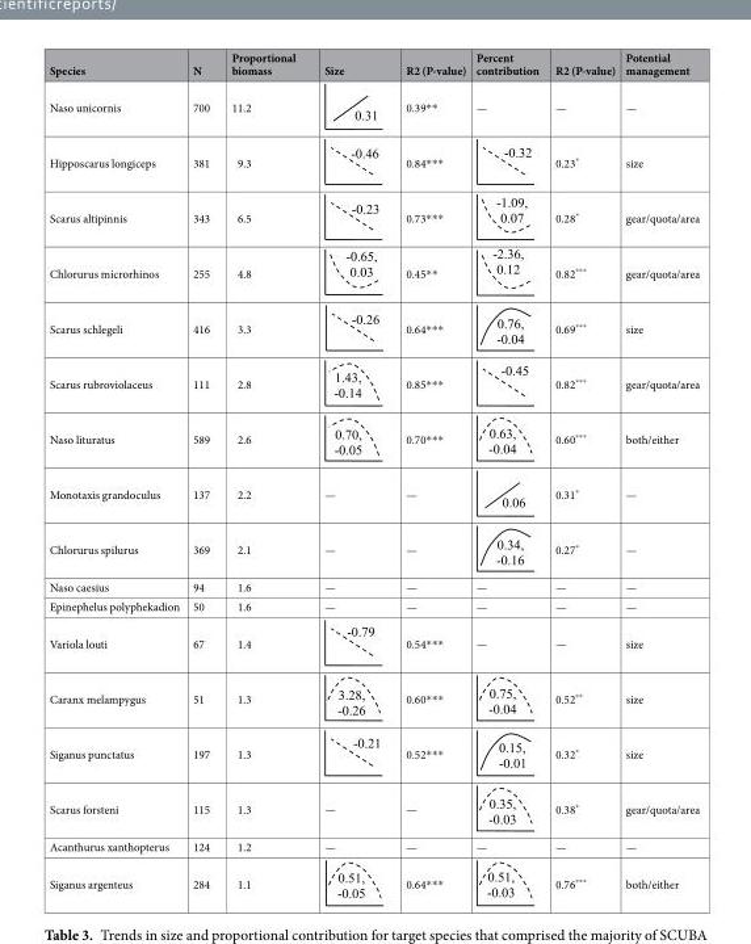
<table><thead><tr><td>Species</td><td>N</td><td>Proportional biomass</td><td>Size</td><td>R2 (P-value)</td><td>Percent contribution</td><td>R2 (P-value)</td><td>Potential management</td></tr></thead><tbody><tr><td>Naso unicornis</td><td>700</td><td>11.2</td><td></td><td>0.39**</td><td>—</td><td>—</td><td>—</td></tr><tr><td>Hipposcarus longiceps</td><td>381</td><td>9.3</td><td></td><td>0.84***</td><td></td><td>0.23*</td><td>size</td></tr><tr><td>Scarus altipinnis</td><td>343</td><td>6.5</td><td></td><td>0.73***</td><td></td><td>0.28*</td><td>gear/quota/area</td></tr><tr><td>Chlorurus microrhinos</td><td>255</td><td>4.8</td><td></td><td>0.45**</td><td></td><td>0.82***</td><td>gear/quota/area</td></tr><tr><td>Scarus schlegeli</td><td>416</td><td>3.3</td><td></td><td>0.64***</td><td></td><td>0.69***</td><td>size</td></tr><tr><td>Scarus rubroviolaceus</td><td>111</td><td>2.8</td><td></td><td>0.85***</td><td></td><td>0.82***</td><td>gear/quota/area</td></tr><tr><td>Naso lituratus</td><td>589</td><td>2.6</td><td></td><td>0.70***</td><td></td><td>0.60***</td><td>both/either</td></tr><tr><td>Monotaxis grandoculus</td><td>137</td><td>2.2</td><td>—</td><td>—</td><td></td><td>0.31*</td><td>—</td></tr><tr><td>Chlorurus spilurus</td><td>369</td><td>2.1</td><td>—</td><td>—</td><td></td><td>0.27*</td><td>—</td></tr><tr><td>Naso caesius</td><td>94</td><td>1.6</td><td>—</td><td>—</td><td>—</td><td>—</td><td>—</td></tr><tr><td>Epinephelus polyphekadion</td><td>50</td><td>1.6</td><td>—</td><td>—</td><td>—</td><td>—</td><td>—</td></tr><tr><td>Variola louti</td><td>67</td><td>1.4</td><td></td><td>0.54***</td><td>—</td><td>—</td><td>size</td></tr><tr><td>Caranx melampygus</td><td>51</td><td>1.3</td><td></td><td>0.60***</td><td></td><td>0.52**</td><td>size</td></tr><tr><td>Siganus punctatus</td><td>197</td><td>1.3</td><td></td><td>0.52***</td><td></td><td>0.32*</td><td>size</td></tr><tr><td>Scarus forsteni</td><td>115</td><td>1.3</td><td>—</td><td>—</td><td></td><td>0.38*</td><td>gear/quota/area</td></tr><tr><td>Acanthurus xanthopterus</td><td>124</td><td>1.2</td><td>—</td><td>—</td><td>—</td><td>—</td><td>—</td></tr><tr><td>Siganus argenteus</td><td>284</td><td>1.1</td><td></td><td>0.64***</td><td></td><td>0.76***</td><td>both/either</td></tr></tbody></table>